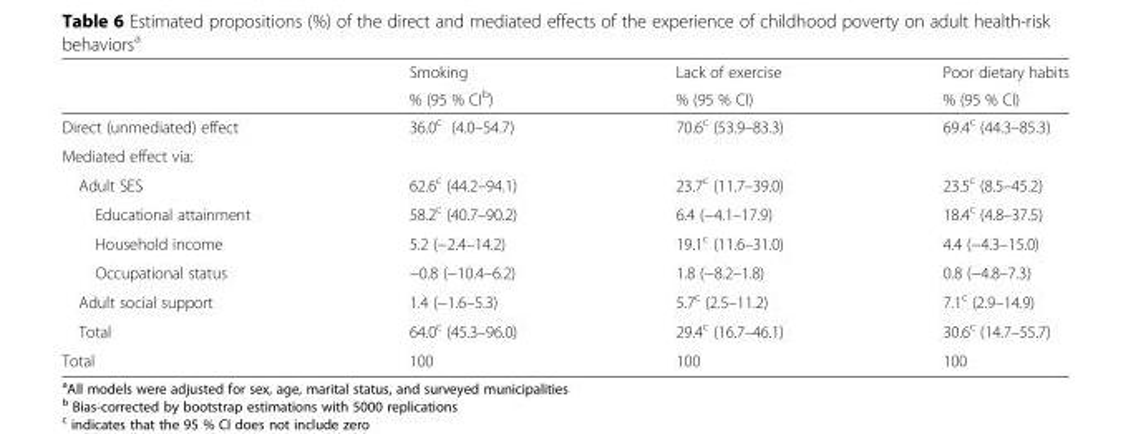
<table><thead><tr><td rowspan="2"></td><td rowspan="2">Smoking % (95 % CI<sup>b</sup>)</td><td rowspan="2">Lack of exercise % (95 % CI)</td><td rowspan="2">Poor dietary habits % (95 % CI)</td></tr><tr></tr></thead><tbody><tr><td>Direct (unmediated) effect</td><td>36.0<sup>c</sup> (4.0–54.7)</td><td>70.6<sup>c</sup> (53.9–83.3)</td><td>69.4<sup>c</sup> (44.3–85.3)</td></tr><tr><td colspan="4">Mediated effect via:</td></tr><tr><td>Adult SES</td><td>62.6<sup>c</sup> (44.2–94.1)</td><td>23.7<sup>c</sup> (11.7–39.0)</td><td>23.5<sup>c</sup> (8.5–45.2)</td></tr><tr><td>Educational attainment</td><td>58.2<sup>c</sup> (40.7–90.2)</td><td>6.4 (−4.1–17.9)</td><td>18.4<sup>c</sup> (4.8–37.5)</td></tr><tr><td>Household income</td><td>5.2 (−2.4–14.2)</td><td>19.1<sup>c</sup> (11.6–31.0)</td><td>4.4 (−4.3–15.0)</td></tr><tr><td>Occupational status</td><td>−0.8 (−10.4–6.2)</td><td>1.8 (−8.2–1.8)</td><td>0.8 (−4.8–7.3)</td></tr><tr><td>Adult social support</td><td>1.4 (−1.6–5.3)</td><td>5.7<sup>c</sup> (2.5–11.2)</td><td>7.1<sup>c</sup> (2.9–14.9)</td></tr><tr><td>Total</td><td>64.0<sup>c</sup> (45.3–96.0)</td><td>29.4<sup>c</sup> (16.7–46.1)</td><td>30.6<sup>c</sup> (14.7–55.7)</td></tr><tr><td>Total</td><td>100</td><td>100</td><td>100</td></tr></tbody></table>